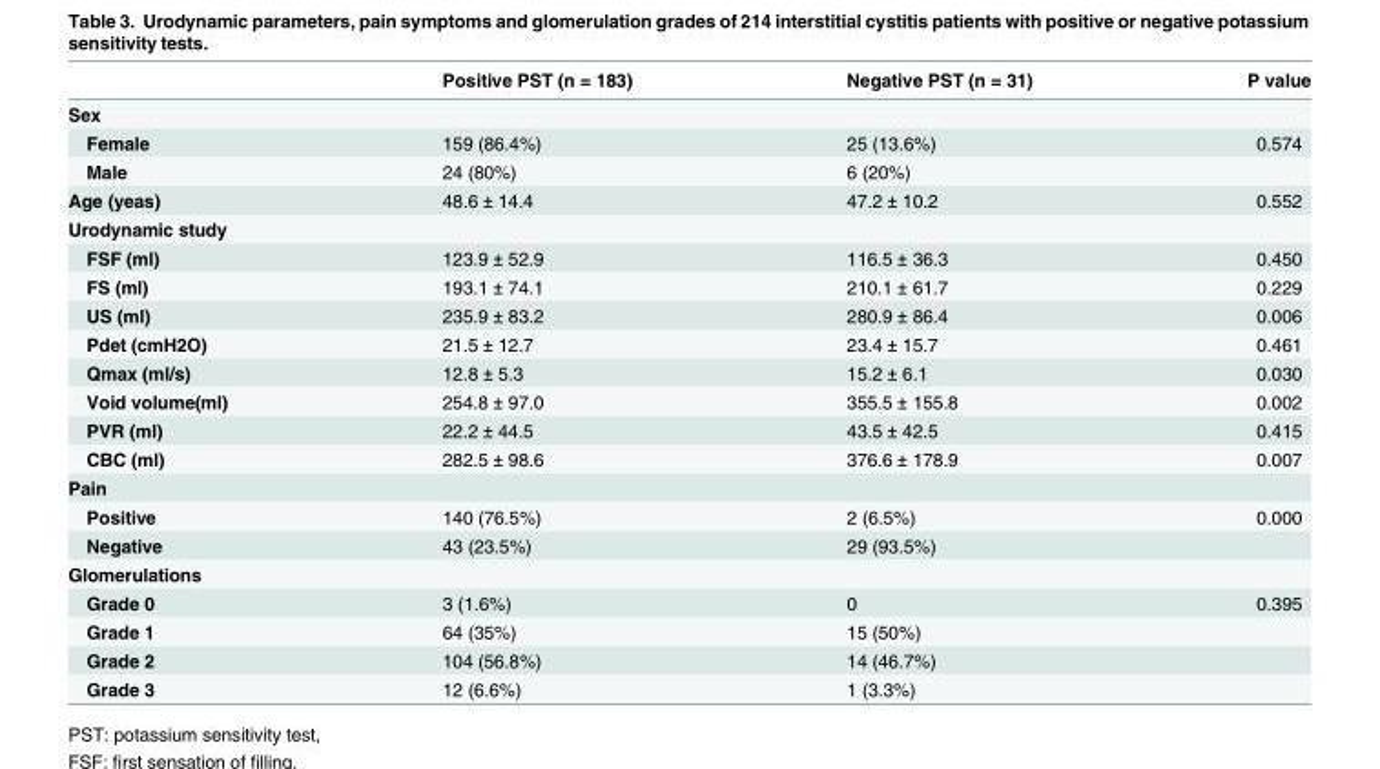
<table><thead><tr><td></td><td>Positive PST (n = 183)</td><td>Negative PST (n = 31)</td><td>P value</td></tr></thead><tbody><tr><td colspan="4">Sex</td></tr><tr><td>Female</td><td>159 (86.4%)</td><td>25 (13.6%)</td><td>0.574</td></tr><tr><td>Male</td><td>24 (80%)</td><td>6 (20%)</td><td></td></tr><tr><td>Age (yeas)</td><td>48.6 ± 14.4</td><td>47.2 ± 10.2</td><td>0.552</td></tr><tr><td colspan="4">Urodynamic study</td></tr><tr><td>FSF (ml)</td><td>123.9 ± 52.9</td><td>116.5 ± 36.3</td><td>0.450</td></tr><tr><td>FS (ml)</td><td>193.1 ± 74.1</td><td>210.1 ± 61.7</td><td>0.229</td></tr><tr><td>US (ml)</td><td>235.9 ± 83.2</td><td>280.9 ± 86.4</td><td>0.006</td></tr><tr><td>Pdet (cmH2O)</td><td>21.5 ± 12.7</td><td>23.4 ± 15.7</td><td>0.461</td></tr><tr><td>Qmax (ml/s)</td><td>12.8 ± 5.3</td><td>15.2 ± 6.1</td><td>0.030</td></tr><tr><td>Void volume(ml)</td><td>254.8 ± 97.0</td><td>355.5 ± 155.8</td><td>0.002</td></tr><tr><td>PVR (ml)</td><td>22.2 ± 44.5</td><td>43.5 ± 42.5</td><td>0.415</td></tr><tr><td>CBC (ml)</td><td>282.5 ± 98.6</td><td>376.6 ± 178.9</td><td>0.007</td></tr><tr><td colspan="4">Pain</td></tr><tr><td>Positive</td><td>140 (76.5%)</td><td>2 (6.5%)</td><td>0.000</td></tr><tr><td>Negative</td><td>43 (23.5%)</td><td>29 (93.5%)</td><td></td></tr><tr><td colspan="4">Glomerulations</td></tr><tr><td>Grade 0</td><td>3 (1.6%)</td><td>0</td><td>0.395</td></tr><tr><td>Grade 1</td><td>64 (35%)</td><td>15 (50%)</td><td></td></tr><tr><td>Grade 2</td><td>104 (56.8%)</td><td>14 (46.7%)</td><td></td></tr><tr><td>Grade 3</td><td>12 (6.6%)</td><td>1 (3.3%)</td><td></td></tr></tbody></table>